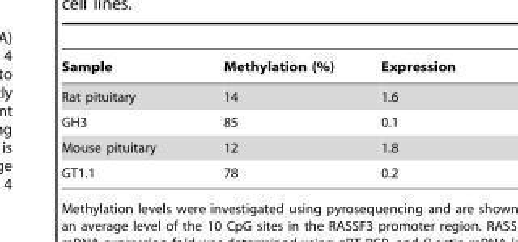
<table><thead><tr><td>Sample</td><td>Methylation (%)</td><td>Expression</td></tr></thead><tbody><tr><td>Rat pituitary</td><td>14</td><td>1.6</td></tr><tr><td>GH3</td><td>85</td><td>0.1</td></tr><tr><td>Mouse pituitary</td><td>12</td><td>1.8</td></tr><tr><td>GT1.1</td><td>78</td><td>0.2</td></tr></tbody></table>